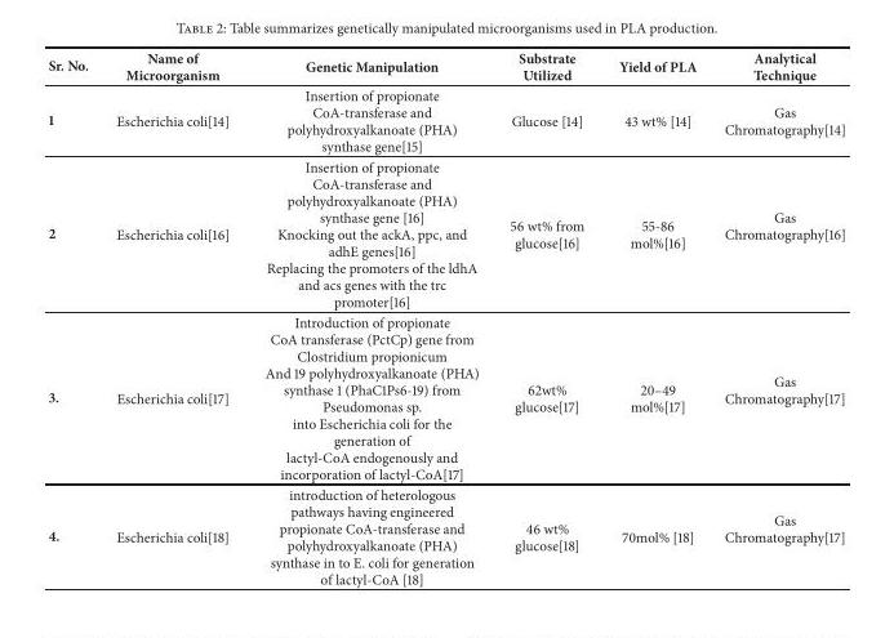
<table><thead><tr><td>Sr. No.</td><td>Name of Microorganism</td><td>Genetic Manipulation</td><td>Substrate Utilized</td><td>Yield of PLA</td><td>Analytical Technique</td></tr></thead><tbody><tr><td>1</td><td>Escherichia coli[14]</td><td>Insertion of propionate CoA-transferase and polyhydroxyalkanoate (PHA) synthase gene[15]</td><td>Glucose [14]</td><td>43 wt% [14]</td><td>Gas Chromatography[14]</td></tr><tr><td>2</td><td>Escherichia coli[16]</td><td>Insertion of propionate CoA-transferase and polyhydroxyalkanoate (PHA) synthase gene [16] Knocking out the ackA, ppc, and adhE genes[16] Replacing the promoters of the ldhA and acs genes with the trc promoter[16]</td><td>56 wt% from glucose[16]</td><td>55-86 mol%[16]</td><td>Gas Chromatography[16]</td></tr><tr><td>3.</td><td>Escherichia coli[17]</td><td>Introduction of propionate CoA transferase (PctCp) gene from Clostridium propionicum And 19 polyhydroxyalkanoate (PHA) synthase 1 (PhaC1Ps6-19) from Pseudomonas sp. into Escherichia coli for the generation of lactyl-CoA endogenously and incorporation of lactyl-CoA[17]</td><td>62wt% glucose[17]</td><td>20–49 mol%[17]</td><td>Gas Chromatography[17]</td></tr><tr><td>4.</td><td>Escherichia coli[18]</td><td>introduction of heterologous pathways having engineered propionate CoA-transferase and polyhydroxyalkanoate (PHA) synthase in to E. coli for generation of lactyl-CoA [18]</td><td>46 wt% glucose[18]</td><td>70mol% [18]</td><td>Gas Chromatography[17]</td></tr></tbody></table>